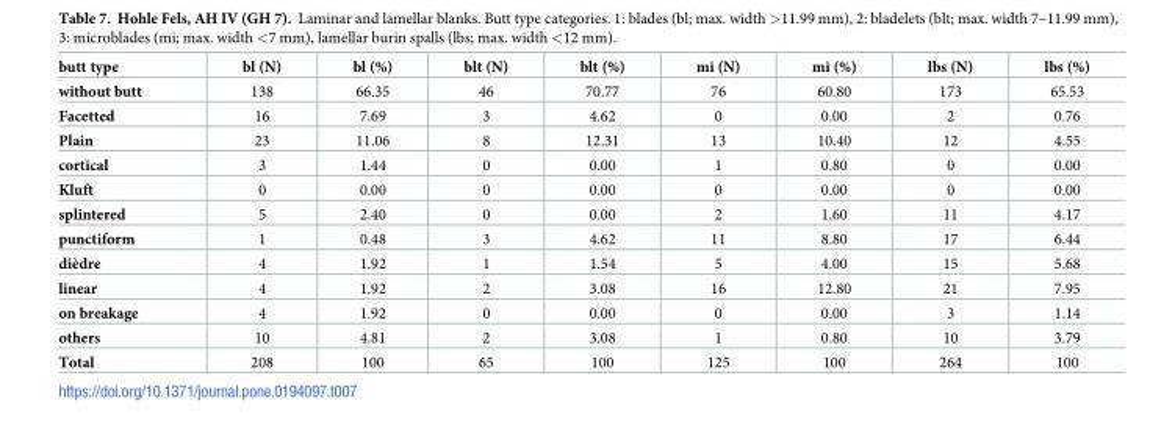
<table><thead><tr><td>butt type</td><td>bl (N)</td><td>bl (%)</td><td>blt (N)</td><td>blt (%)</td><td>mi (N)</td><td>mi (%)</td><td>lbs (N)</td><td>lbs (%)</td></tr></thead><tbody><tr><td>without butt</td><td>138</td><td>66.35</td><td>46</td><td>70.77</td><td>76</td><td>60.80</td><td>173</td><td>65.53</td></tr><tr><td>Facetted</td><td>16</td><td>7.69</td><td>3</td><td>4.62</td><td>0</td><td>0.00</td><td>2</td><td>0.76</td></tr><tr><td>Plain</td><td>23</td><td>11.06</td><td>8</td><td>12.31</td><td>13</td><td>10.40</td><td>12</td><td>4.55</td></tr><tr><td>cortical</td><td>3</td><td>1.44</td><td>0</td><td>0.00</td><td>1</td><td>0.80</td><td>0</td><td>0.00</td></tr><tr><td>Kluft</td><td>0</td><td>0.00</td><td>0</td><td>0.00</td><td>0</td><td>0.00</td><td>0</td><td>0.00</td></tr><tr><td>splintered</td><td>5</td><td>2.40</td><td>0</td><td>0.00</td><td>2</td><td>1.60</td><td>11</td><td>4.17</td></tr><tr><td>punctiform</td><td>1</td><td>0.48</td><td>3</td><td>4.62</td><td>11</td><td>8.80</td><td>17</td><td>6.44</td></tr><tr><td>dièdre</td><td>4</td><td>1.92</td><td>1</td><td>1.54</td><td>5</td><td>4.00</td><td>15</td><td>5.68</td></tr><tr><td>linear</td><td>4</td><td>1.92</td><td>2</td><td>3.08</td><td>16</td><td>12.80</td><td>21</td><td>7.95</td></tr><tr><td>on breakage</td><td>4</td><td>1.92</td><td>0</td><td>0.00</td><td>0</td><td>0.00</td><td>3</td><td>1.14</td></tr><tr><td>others</td><td>10</td><td>4.81</td><td>2</td><td>3.08</td><td>1</td><td>0.80</td><td>10</td><td>3.79</td></tr><tr><td>Total</td><td>208</td><td>100</td><td>65</td><td>100</td><td>125</td><td>100</td><td>264</td><td>100</td></tr></tbody></table>